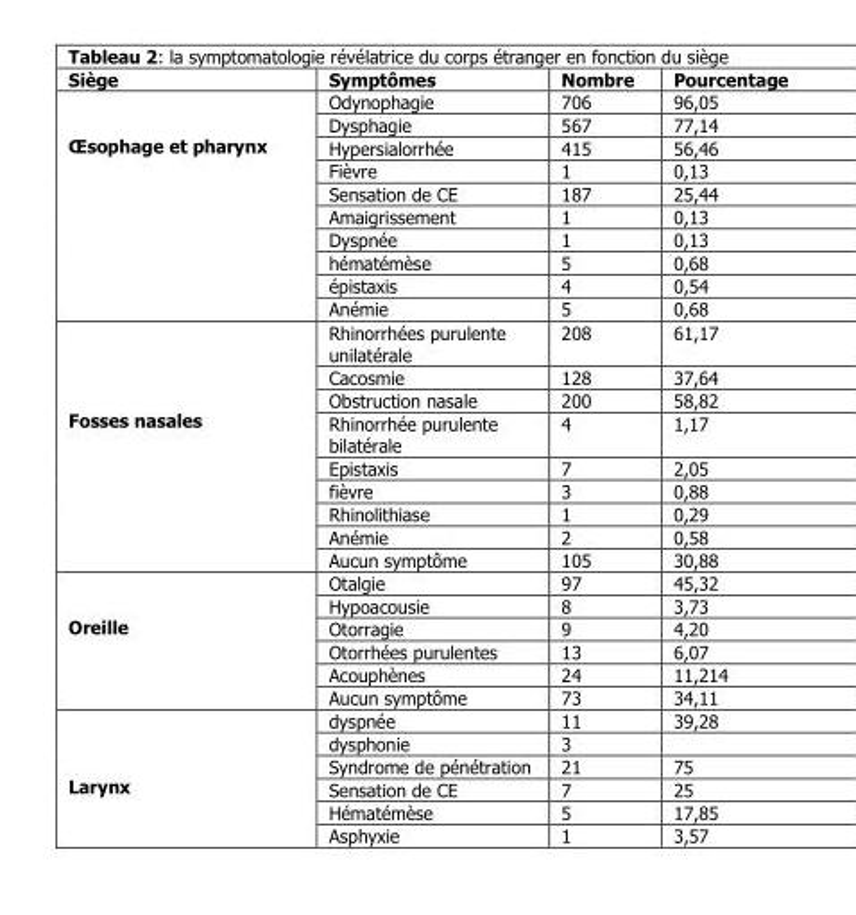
<table><thead><tr><td>Siège</td><td>Symptômes</td><td>Nombre</td><td>Pourcentage</td></tr></thead><tbody><tr><td rowspan="10">Œsophage et pharynx</td><td>Odynophagie</td><td>706</td><td>96,05</td></tr><tr><td>Dysphagie</td><td>567</td><td>77,14</td></tr><tr><td>Hypersialorrhée</td><td>415</td><td>56,46</td></tr><tr><td>Fièvre</td><td>1</td><td>0,13</td></tr><tr><td>Sensation de CE</td><td>187</td><td>25,44</td></tr><tr><td>Amaigrissement</td><td>1</td><td>0,13</td></tr><tr><td>Dyspnée</td><td>1</td><td>0,13</td></tr><tr><td>hématémèse</td><td>5</td><td>0,68</td></tr><tr><td>épistaxis</td><td>4</td><td>0,54</td></tr><tr><td>Anémie</td><td>5</td><td>0,68</td></tr><tr><td rowspan="9">Fosses nasales</td><td>Rhinorrhées purulente unilatérale</td><td>208</td><td>61,17</td></tr><tr><td>Cacosmie</td><td>128</td><td>37,64</td></tr><tr><td>Obstruction nasale</td><td>200</td><td>58,82</td></tr><tr><td>Rhinorrhée purulente bilatérale</td><td>4</td><td>1,17</td></tr><tr><td>Epistaxis</td><td>7</td><td>2,05</td></tr><tr><td>fièvre</td><td>3</td><td>0,88</td></tr><tr><td>Rhinolithiase</td><td>1</td><td>0,29</td></tr><tr><td>Anémie</td><td>2</td><td>0,58</td></tr><tr><td>Aucun symptôme</td><td>105</td><td>30,88</td></tr><tr><td rowspan="6">Oreille</td><td>Otalgie</td><td>97</td><td>45,32</td></tr><tr><td>Hypoacousie</td><td>8</td><td>3,73</td></tr><tr><td>Otorragie</td><td>9</td><td>4,20</td></tr><tr><td>Otorrhées purulentes</td><td>13</td><td>6,07</td></tr><tr><td>Acouphènes</td><td>24</td><td>11,214</td></tr><tr><td>Aucun symptôme</td><td>73</td><td>34,11</td></tr><tr><td rowspan="6">Larynx</td><td>dyspnée</td><td>11</td><td>39,28</td></tr><tr><td>dysphonie</td><td>3</td><td></td></tr><tr><td>Syndrome de pénétration</td><td>21</td><td>75</td></tr><tr><td>Sensation de CE</td><td>7</td><td>25</td></tr><tr><td>Hématémèse</td><td>5</td><td>17,85</td></tr><tr><td>Asphyxie</td><td>1</td><td>3,57</td></tr></tbody></table>